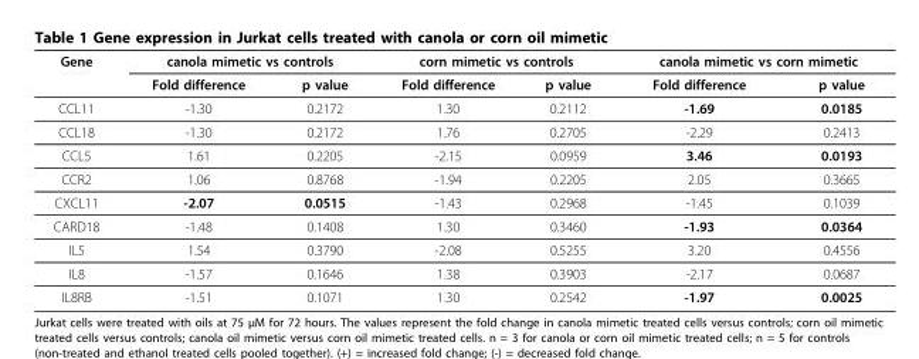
<table><thead><tr><td rowspan="2">Gene</td><td colspan="2">canola mimetic vs controls</td><td colspan="2">corn mimetic vs controls</td><td colspan="2">canola mimetic vs corn mimetic</td></tr><tr><td>Fold difference</td><td>p value</td><td>Fold difference</td><td>p value</td><td>Fold difference</td><td>p value</td></tr></thead><tbody><tr><td>CCL11</td><td>-1.30</td><td>0.2172</td><td>1.30</td><td>0.2112</td><td>-1.69</td><td>0.0185</td></tr><tr><td>CCL18</td><td>-1.30</td><td>0.2172</td><td>1.76</td><td>0.2705</td><td>-2.29</td><td>0.2413</td></tr><tr><td>CCL5</td><td>1.61</td><td>0.2205</td><td>-2.15</td><td>0.0959</td><td>3.46</td><td>0.0193</td></tr><tr><td>CCR2</td><td>1.06</td><td>0.8768</td><td>-1.94</td><td>0.2205</td><td>2.05</td><td>0.3665</td></tr><tr><td>CXCL11</td><td>-2.07</td><td>0.0515</td><td>-1.43</td><td>0.2968</td><td>-1.45</td><td>0.1039</td></tr><tr><td>CARD18</td><td>-1.48</td><td>0.1408</td><td>1.30</td><td>0.3460</td><td>-1.93</td><td>0.0364</td></tr><tr><td>IL5</td><td>1.54</td><td>0.3790</td><td>-2.08</td><td>0.5255</td><td>3.20</td><td>0.4556</td></tr><tr><td>IL8</td><td>-1.57</td><td>0.1646</td><td>1.38</td><td>0.3903</td><td>-2.17</td><td>0.0687</td></tr><tr><td>IL8RB</td><td>-1.51</td><td>0.1071</td><td>1.30</td><td>0.2542</td><td>-1.97</td><td>0.0025</td></tr></tbody></table>